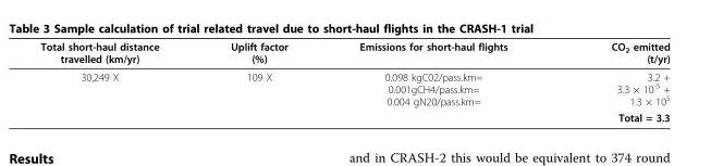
<table><thead><tr><td>Total short-haul distance travelled (km/yr)</td><td>Uplift factor (%)</td><td>Emissions for short-haul flights</td><td>CO<sub>2</sub> emitted (t/yr)</td></tr></thead><tbody><tr><td rowspan="2">30,249 X</td><td>109 X</td><td>0.098 kgC02/pass.km= 0.001gCH4/pass.km= 0.004 gN20/pass.km=</td><td>3.2 + 3.3 × 10<sup>-5</sup> + 1.3 × 10<sup>5</sup></td></tr><tr><td></td><td></td><td>Total = 3.3</td></tr></tbody></table>